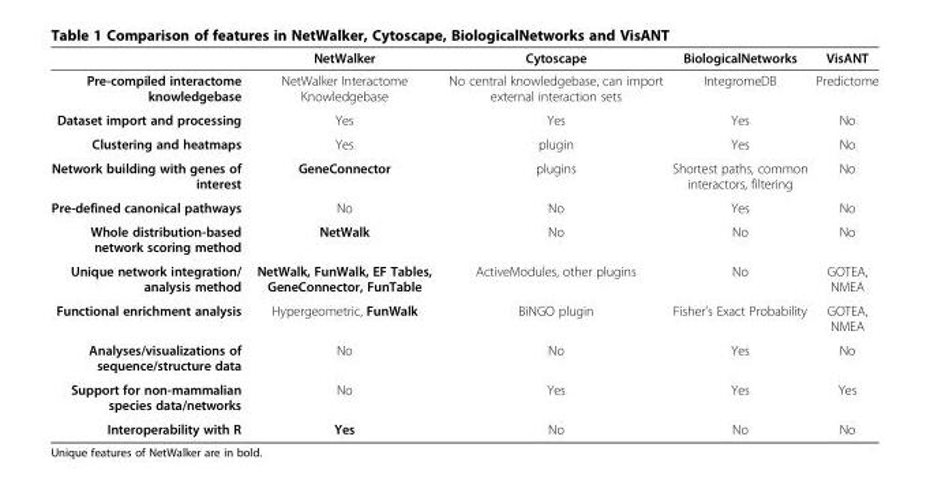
<table><thead><tr><td></td><td>NetWalker</td><td>Cytoscape</td><td>BiologicalNetworks</td><td>VisANT</td></tr></thead><tbody><tr><td>Pre-compiled interactome knowledgebase</td><td>NetWalker Interactome Knowledgebase</td><td>No central knowledgebase, can import external interaction sets</td><td>IntegromeDB</td><td>Predictome</td></tr><tr><td>Dataset import and processing</td><td>Yes</td><td>Yes</td><td>Yes</td><td>No</td></tr><tr><td>Clustering and heatmaps</td><td>Yes</td><td>plugin</td><td>Yes</td><td>No</td></tr><tr><td>Network building with genes of interest</td><td>GeneConnector</td><td>plugins</td><td>Shortest paths, common interactors, filtering</td><td>No</td></tr><tr><td>Pre-defined canonical pathways</td><td>No</td><td>No</td><td>Yes</td><td>No</td></tr><tr><td>Whole distribution-based network scoring method</td><td>NetWalk</td><td>No</td><td>No</td><td>No</td></tr><tr><td>Unique network integration/ analysis method</td><td>NetWalk, FunWalk, EF Tables, GeneConnector, FunTable</td><td>ActiveModules, other plugins</td><td>No</td><td>GOTEA, NMEA</td></tr><tr><td>Functional enrichment analysis</td><td>Hypergeometric, FunWalk</td><td>BiNGO plugin</td><td>Fisher’s Exact Probability</td><td>GOTEA, NMEA</td></tr><tr><td>Analyses/visualizations of sequence/structure data</td><td>No</td><td>No</td><td>Yes</td><td>No</td></tr><tr><td>Support for non-mammalian species data/networks</td><td>No</td><td>Yes</td><td>Yes</td><td>Yes</td></tr><tr><td>Interoperability with R</td><td>Yes</td><td>No</td><td>No</td><td>No</td></tr></tbody></table>